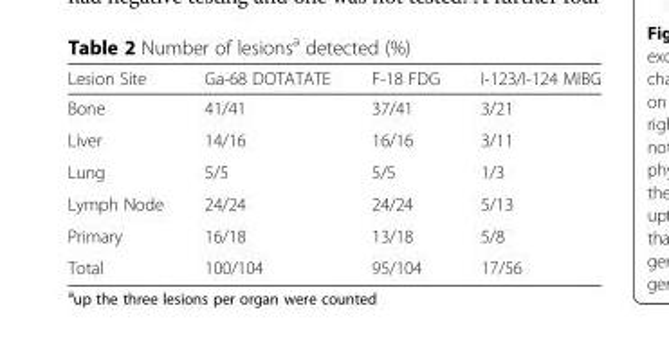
<table><thead><tr><td>Lesion Site</td><td>Ga-68 DOTATATE</td><td>F-18 FDG</td><td>I-123/I-124 MIBG</td></tr></thead><tbody><tr><td>Bone</td><td>41/41</td><td>37/41</td><td>3/21</td></tr><tr><td>Liver</td><td>14/16</td><td>16/16</td><td>3/11</td></tr><tr><td>Lung</td><td>5/5</td><td>5/5</td><td>1/3</td></tr><tr><td>Lymph Node</td><td>24/24</td><td>24/24</td><td>5/13</td></tr><tr><td>Primary</td><td>16/18</td><td>13/18</td><td>5/8</td></tr><tr><td>Total</td><td>100/104</td><td>95/104</td><td>17/56</td></tr></tbody></table>